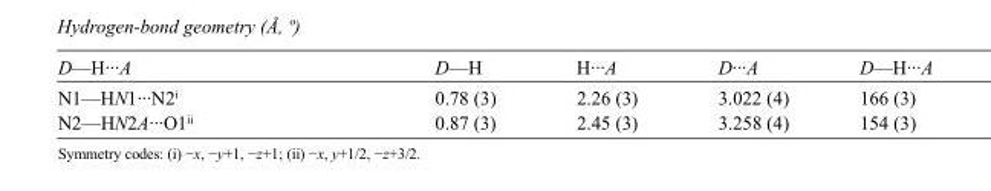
<table><tbody><tr><td>D—H···A</td><td>D—H</td><td>H···A</td><td>D···A</td><td>D—H···A</td></tr><tr><td>N1—HN1···N2<sup>i</sup></td><td>0.78 (3)</td><td>2.26 (3)</td><td>3.022 (4)</td><td>166 (3)</td></tr><tr><td>N2—HN2A···O1<sup>ii</sup></td><td>0.87 (3)</td><td>2.45 (3)</td><td>3.258 (4)</td><td>154 (3)</td></tr></tbody></table>